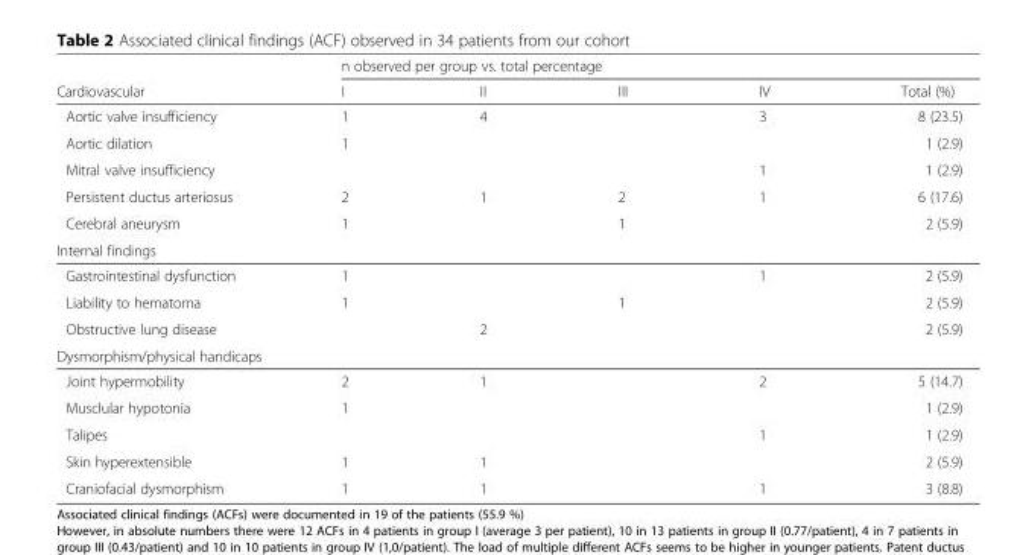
<table><thead><tr><td rowspan="2">Cardiovascular</td><td colspan="5">n observed per group vs. total percentage</td></tr><tr><td>I</td><td>II</td><td>III</td><td>IV</td><td>Total (%)</td></tr></thead><tbody><tr><td>Aortic valve insufficiency</td><td>1</td><td>4</td><td></td><td>3</td><td>8 (23.5)</td></tr><tr><td>Aortic dilation</td><td>1</td><td></td><td></td><td></td><td>1 (2.9)</td></tr><tr><td>Mitral valve insufficiency</td><td></td><td></td><td></td><td>1</td><td>1 (2.9)</td></tr><tr><td>Persistent ductus arteriosus</td><td>2</td><td>1</td><td>2</td><td>1</td><td>6 (17.6)</td></tr><tr><td>Cerebral aneurysm</td><td>1</td><td></td><td>1</td><td></td><td>2 (5.9)</td></tr><tr><td colspan="6">Internal findings</td></tr><tr><td>Gastrointestinal dysfunction</td><td>1</td><td></td><td></td><td>1</td><td>2 (5.9)</td></tr><tr><td>Liability to hematoma</td><td>1</td><td></td><td>1</td><td></td><td>2 (5.9)</td></tr><tr><td>Obstructive lung disease</td><td></td><td>2</td><td></td><td></td><td>2 (5.9)</td></tr><tr><td colspan="6">Dysmorphism/physical handicaps</td></tr><tr><td>Joint hypermobility</td><td>2</td><td>1</td><td></td><td>2</td><td>5 (14.7)</td></tr><tr><td>Musclular hypotonia</td><td>1</td><td></td><td></td><td></td><td>1 (2.9)</td></tr><tr><td>Talipes</td><td></td><td></td><td></td><td>1</td><td>1 (2.9)</td></tr><tr><td>Skin hyperextensible</td><td>1</td><td>1</td><td></td><td></td><td>2 (5.9)</td></tr><tr><td>Craniofacial dysmorphism</td><td>1</td><td>1</td><td></td><td>1</td><td>3 (8.8)</td></tr></tbody></table>